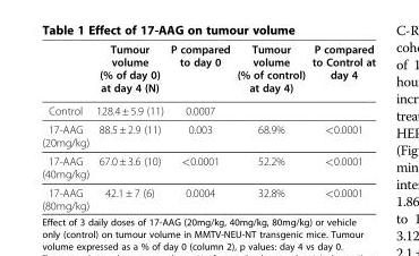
<table><thead><tr><td></td><td>Tumour volume (% of day 0) at day 4 (N)</td><td>P compared to day 0</td><td>Tumour volume (% of control) at day 4)</td><td>P compared to Control at day 4</td></tr></thead><tbody><tr><td>Control</td><td>128.4 ± 5.9 (11)</td><td>0.0007</td><td></td><td></td></tr><tr><td>17-AAG (20mg/kg)</td><td>88.5 ± 2.9 (11)</td><td>0.003</td><td>68.9%</td><td>&lt;0.0001</td></tr><tr><td>17-AAG (40mg/kg)</td><td>67.0 ± 3.6 (10)</td><td>&lt;0.0001</td><td>52.2%</td><td>&lt;0.0001</td></tr><tr><td>17-AAG (80mg/kg)</td><td>42.1 ± 7 (6)</td><td>0.0004</td><td>32.8%</td><td>&lt;0.0001</td></tr></tbody></table>